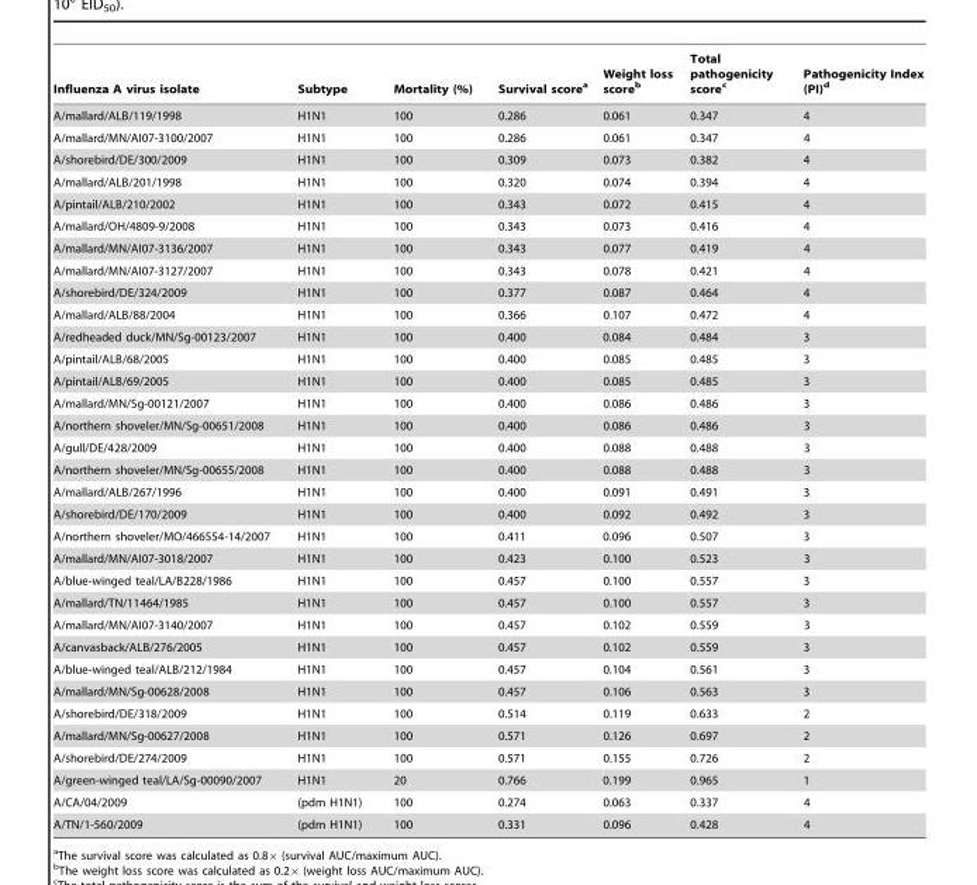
<table><thead><tr><td>Influenza A virus isolate</td><td>Subtype</td><td>Mortality (%)</td><td>Survival score<sup>a</sup></td><td>Weight loss score<sup>b</sup></td><td>Total pathogenicity score<sup>c</sup></td><td>Pathogenicity Index (PI)<sup>d</sup></td></tr></thead><tbody><tr><td>A/mallard/ALB/119/1998</td><td>H1N1</td><td>100</td><td>0.286</td><td>0.061</td><td>0.347</td><td>4</td></tr><tr><td>A/mallard/MN/AI07-3100/2007</td><td>H1N1</td><td>100</td><td>0.286</td><td>0.061</td><td>0.347</td><td>4</td></tr><tr><td>A/shorebird/DE/300/2009</td><td>H1N1</td><td>100</td><td>0.309</td><td>0.073</td><td>0.382</td><td>4</td></tr><tr><td>A/mallard/ALB/201/1998</td><td>H1N1</td><td>100</td><td>0.320</td><td>0.074</td><td>0.394</td><td>4</td></tr><tr><td>A/pintail/ALB/210/2002</td><td>H1N1</td><td>100</td><td>0.343</td><td>0.072</td><td>0.415</td><td>4</td></tr><tr><td>A/mallard/OH/4809-9/2008</td><td>H1N1</td><td>100</td><td>0.343</td><td>0.073</td><td>0.416</td><td>4</td></tr><tr><td>A/mallard/MN/AI07-3136/2007</td><td>H1N1</td><td>100</td><td>0.343</td><td>0.077</td><td>0.419</td><td>4</td></tr><tr><td>A/mallard/MN/AI07-3127/2007</td><td>H1N1</td><td>100</td><td>0.343</td><td>0.078</td><td>0.421</td><td>4</td></tr><tr><td>A/shorebird/DE/324/2009</td><td>H1N1</td><td>100</td><td>0.377</td><td>0.087</td><td>0.464</td><td>4</td></tr><tr><td>A/mallard/ALB/88/2004</td><td>H1N1</td><td>100</td><td>0.366</td><td>0.107</td><td>0.472</td><td>4</td></tr><tr><td>A/redheaded duck/MN/Sg-00123/2007</td><td>H1N1</td><td>100</td><td>0.400</td><td>0.084</td><td>0.484</td><td>3</td></tr><tr><td>A/pintail/ALB/68/2005</td><td>H1N1</td><td>100</td><td>0.400</td><td>0.085</td><td>0.485</td><td>3</td></tr><tr><td>A/pintail/ALB/69/2005</td><td>H1N1</td><td>100</td><td>0.400</td><td>0.085</td><td>0.485</td><td>3</td></tr><tr><td>A/mallard/MN/Sg-00121/2007</td><td>H1N1</td><td>100</td><td>0.400</td><td>0.086</td><td>0.486</td><td>3</td></tr><tr><td>A/northern shoveler/MN/Sg-00651/2008</td><td>H1N1</td><td>100</td><td>0.400</td><td>0.086</td><td>0.486</td><td>3</td></tr><tr><td>A/gull/DE/428/2009</td><td>H1N1</td><td>100</td><td>0.400</td><td>0.088</td><td>0.488</td><td>3</td></tr><tr><td>A/northern shoveler/MN/Sg-00655/2008</td><td>H1N1</td><td>100</td><td>0.400</td><td>0.088</td><td>0.488</td><td>3</td></tr><tr><td>A/mallard/ALB/267/1996</td><td>H1N1</td><td>100</td><td>0.400</td><td>0.091</td><td>0.491</td><td>3</td></tr><tr><td>A/shorebird/DE/170/2009</td><td>H1N1</td><td>100</td><td>0.400</td><td>0.092</td><td>0.492</td><td>3</td></tr><tr><td>A/northern shoveler/MO/466554-14/2007</td><td>H1N1</td><td>100</td><td>0.411</td><td>0.096</td><td>0.507</td><td>3</td></tr><tr><td>A/mallard/MN/AI07-3018/2007</td><td>H1N1</td><td>100</td><td>0.423</td><td>0.100</td><td>0.523</td><td>3</td></tr><tr><td>A/blue-winged teal/LA/B228/1986</td><td>H1N1</td><td>100</td><td>0.457</td><td>0.100</td><td>0.557</td><td>3</td></tr><tr><td>A/mallard/TN/11464/1985</td><td>H1N1</td><td>100</td><td>0.457</td><td>0.100</td><td>0.557</td><td>3</td></tr><tr><td>A/mallard/MN/AI07-3140/2007</td><td>H1N1</td><td>100</td><td>0.457</td><td>0.102</td><td>0.559</td><td>3</td></tr><tr><td>A/canvasback/ALB/276/2005</td><td>H1N1</td><td>100</td><td>0.457</td><td>0.102</td><td>0.559</td><td>3</td></tr><tr><td>A/blue-winged teal/ALB/212/1984</td><td>H1N1</td><td>100</td><td>0.457</td><td>0.104</td><td>0.561</td><td>3</td></tr><tr><td>A/mallard/MN/Sg-00628/2008</td><td>H1N1</td><td>100</td><td>0.457</td><td>0.106</td><td>0.563</td><td>3</td></tr><tr><td>A/shorebird/DE/318/2009</td><td>H1N1</td><td>100</td><td>0.514</td><td>0.119</td><td>0.633</td><td>2</td></tr><tr><td>A/mallard/MN/Sg-00627/2008</td><td>H1N1</td><td>100</td><td>0.571</td><td>0.126</td><td>0.697</td><td>2</td></tr><tr><td>A/shorebird/DE/274/2009</td><td>H1N1</td><td>100</td><td>0.571</td><td>0.155</td><td>0.726</td><td>2</td></tr><tr><td>A/green-winged teal/LA/Sg-00090/2007</td><td>H1N1</td><td>20</td><td>0.766</td><td>0.199</td><td>0.965</td><td>1</td></tr><tr><td>A/CA/04/2009</td><td>(pdm H1N1)</td><td>100</td><td>0.274</td><td>0.063</td><td>0.337</td><td>4</td></tr><tr><td>A/TN/1-560/2009</td><td>(pdm H1N1)</td><td>100</td><td>0.331</td><td>0.096</td><td>0.428</td><td>4</td></tr></tbody></table>